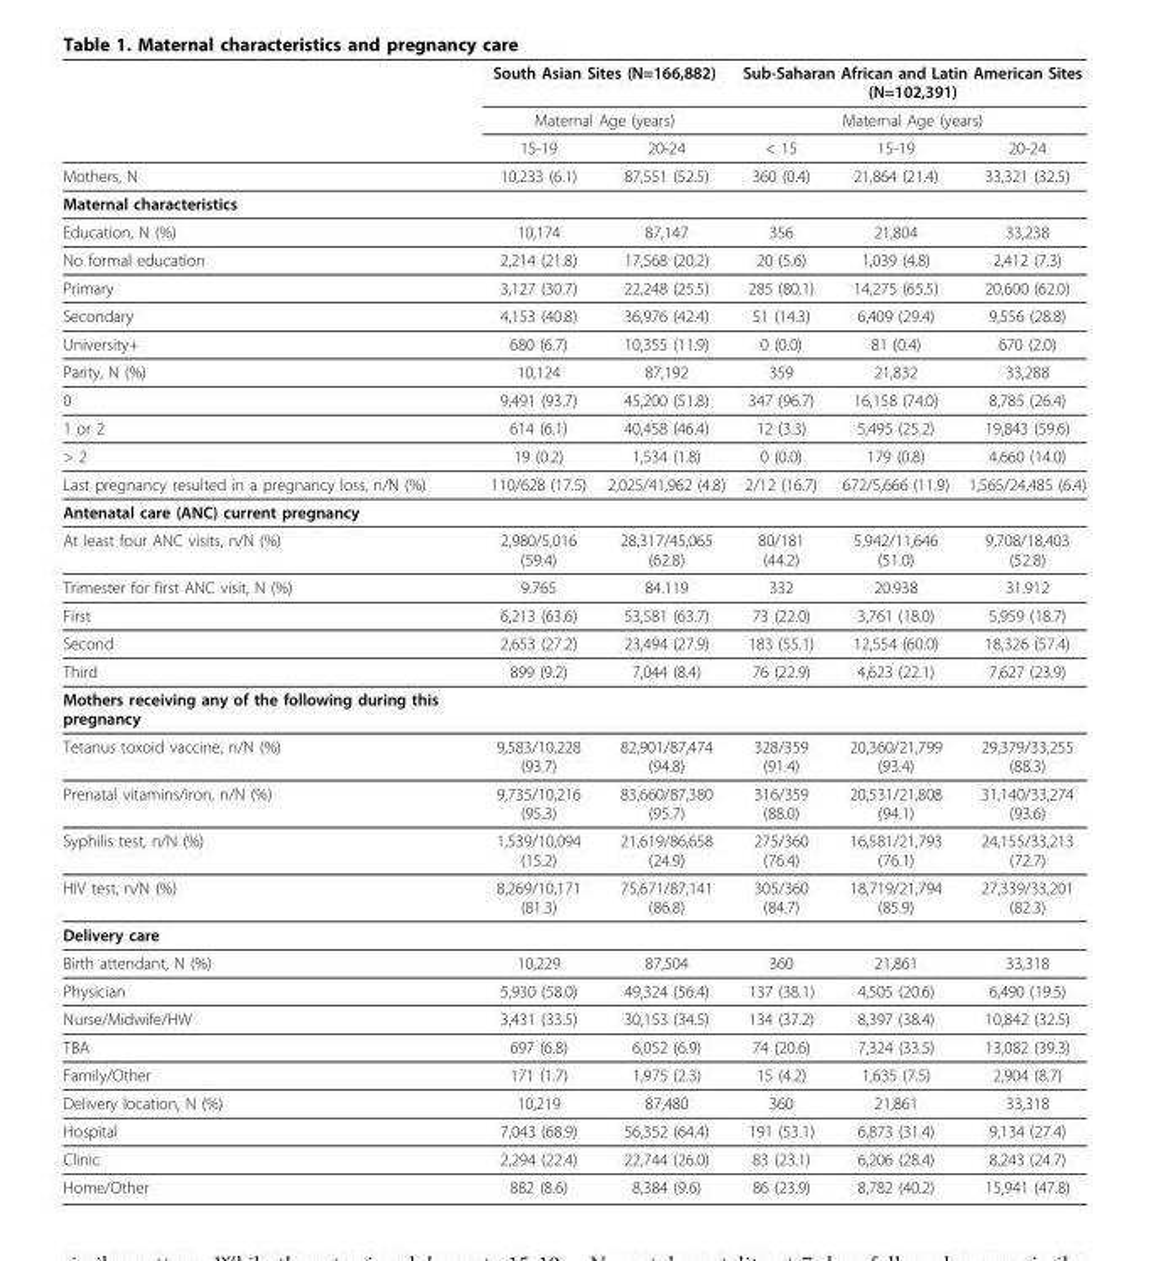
<table><thead><tr><td rowspan="3"></td><td rowspan="2" colspan="2">South Asian Sites (N=166,882) Maternal Age (years)</td><td rowspan="2" colspan="3">Sub-Saharan African and Latin American Sites (N=102,391) Maternal Age (years)</td></tr><tr></tr><tr><td>15-19</td><td>20-24</td><td>&lt; 15</td><td>15-19</td><td>20-24</td></tr></thead><tbody><tr><td>Mothers, N</td><td>10,233 (6.1)</td><td>87,551 (52.5)</td><td>360 (0.4)</td><td>21,864 (21.4)</td><td>33,321 (32.5)</td></tr><tr><td colspan="6">Maternal characteristics</td></tr><tr><td>Education, N (%)</td><td>10,174</td><td>87,147</td><td>356</td><td>21,804</td><td>33,238</td></tr><tr><td>No formal education</td><td>2,214 (21.8)</td><td>17,568 (20.2)</td><td>20 (5.6)</td><td>1,039 (4.8)</td><td>2,412 (7.3)</td></tr><tr><td>Primary</td><td>3,127 (30.7)</td><td>22,248 (25.5)</td><td>285 (80.1)</td><td>14,275 (65.5)</td><td>20,600 (62.0)</td></tr><tr><td>Secondary</td><td>4,153 (40.8)</td><td>36,976 (42.4)</td><td>51 (14.3)</td><td>6,409 (29.4)</td><td>9,556 (28.8)</td></tr><tr><td>University+</td><td>680 (6.7)</td><td>10,355 (11.9)</td><td>0 (0.0)</td><td>81 (0.4)</td><td>670 (2.0)</td></tr><tr><td>Parity, N (%)</td><td>10,124</td><td>87,192</td><td>359</td><td>21,832</td><td>33,288</td></tr><tr><td>0</td><td>9,491 (93.7)</td><td>45,200 (51.8)</td><td>347 (96.7)</td><td>16,158 (74.0)</td><td>8,785 (26.4)</td></tr><tr><td>1 or 2</td><td>614 (6.1)</td><td>40,458 (46.4)</td><td>12 (3.3)</td><td>5,495 (25.2)</td><td>19,843 (59.6)</td></tr><tr><td>&gt; 2</td><td>19 (0.2)</td><td>1,534 (1.8)</td><td>0 (0.0)</td><td>179 (0.8)</td><td>4,660 (14.0)</td></tr><tr><td>Last pregnancy resulted in a pregnancy loss, n/N (%)</td><td>110/628 (17.5)</td><td>2,025/41,962 (4.8)</td><td>2/12 (16.7)</td><td>672/5,666 (11.9)</td><td>1,565/24,485 (6.4)</td></tr><tr><td colspan="6">Antenatal care (ANC) current pregnancy</td></tr><tr><td>At least four ANC visits, n/N (%)</td><td>2,980/5,016 (59.4)</td><td>28,317/45,065 (62.8)</td><td>80/181 (44.2)</td><td>5,942/11,646 (51.0)</td><td>9,708/18,403 (52.8)</td></tr><tr><td>Trimester for first ANC visit, N (%)</td><td>9.765</td><td>84.119</td><td>332</td><td>20.938</td><td>31.912</td></tr><tr><td>First</td><td>6,213 (63.6)</td><td>53,581 (63.7)</td><td>73 (22.0)</td><td>3,761 (18.0)</td><td>5,959 (18.7)</td></tr><tr><td>Second</td><td>2,653 (27.2)</td><td>23,494 (27.9)</td><td>183 (55.1)</td><td>12,554 (60.0)</td><td>18,326 (57.4)</td></tr><tr><td>Third</td><td>899 (9.2)</td><td>7,044 (8.4)</td><td>76 (22.9)</td><td>4,623 (22.1)</td><td>7,627 (23.9)</td></tr><tr><td colspan="6">Mothers receiving any of the following during this pregnancy</td></tr><tr><td>Tetanus toxoid vaccine, n/N (%)</td><td>9,583/10,228 (93.7)</td><td>82,901/87,474 (94.8)</td><td>328/359 (91.4)</td><td>20,360/21,799 (93.4)</td><td>29,379/33,255 (88.3)</td></tr><tr><td>Prenatal vitamins/iron, n/N (%)</td><td>9,735/10,216 (95.3)</td><td>83,660/87,380 (95.7)</td><td>316/359 (88.0)</td><td>20,531/21,808 (94.1)</td><td>31,140/33,274 (93.6)</td></tr><tr><td>Syphilis test, n/N (%)</td><td>1,539/10,094 (15.2)</td><td>21,619/86,658 (24.9)</td><td>275/360 (76.4)</td><td>16,581/21,793 (76.1)</td><td>24,155/33,213 (72.7)</td></tr><tr><td>HIV test, n/N (%)</td><td>8,269/10,171 (81.3)</td><td>75,671/87,141 (86.8)</td><td>305/360 (84.7)</td><td>18,719/21,794 (85.9)</td><td>27,339/33,201 (82.3)</td></tr><tr><td colspan="6">Delivery care</td></tr><tr><td>Birth attendant, N (%)</td><td>10,229</td><td>87,504</td><td>360</td><td>21,861</td><td>33,318</td></tr><tr><td>Physician</td><td>5,930 (58.0)</td><td>49,324 (56.4)</td><td>137 (38.1)</td><td>4,505 (20.6)</td><td>6,490 (19.5)</td></tr><tr><td>Nurse/Midwife/HW</td><td>3,431 (33.5)</td><td>30,153 (34.5)</td><td>134 (37.2)</td><td>8,397 (38.4)</td><td>10,842 (32.5)</td></tr><tr><td>TBA</td><td>697 (6.8)</td><td>6,052 (6.9)</td><td>74 (20.6)</td><td>7,324 (33.5)</td><td>13,082 (39.3)</td></tr><tr><td>Family/Other</td><td>171 (1.7)</td><td>1,975 (2.3)</td><td>15 (4.2)</td><td>1,635 (7.5)</td><td>2,904 (8.7)</td></tr><tr><td>Delivery location, N (%)</td><td>10,219</td><td>87,480</td><td>360</td><td>21,861</td><td>33,318</td></tr><tr><td>Hospital</td><td>7,043 (68.9)</td><td>56,352 (64.4)</td><td>191 (53.1)</td><td>6,873 (31.4)</td><td>9,134 (27.4)</td></tr><tr><td>Clinic</td><td>2,294 (22.4)</td><td>22,744 (26.0)</td><td>83 (23.1)</td><td>6,206 (28.4)</td><td>8,243 (24.7)</td></tr><tr><td>Home/Other</td><td>882 (8.6)</td><td>8,384 (9.6)</td><td>86 (23.9)</td><td>8,782 (40.2)</td><td>15,941 (47.8)</td></tr></tbody></table>